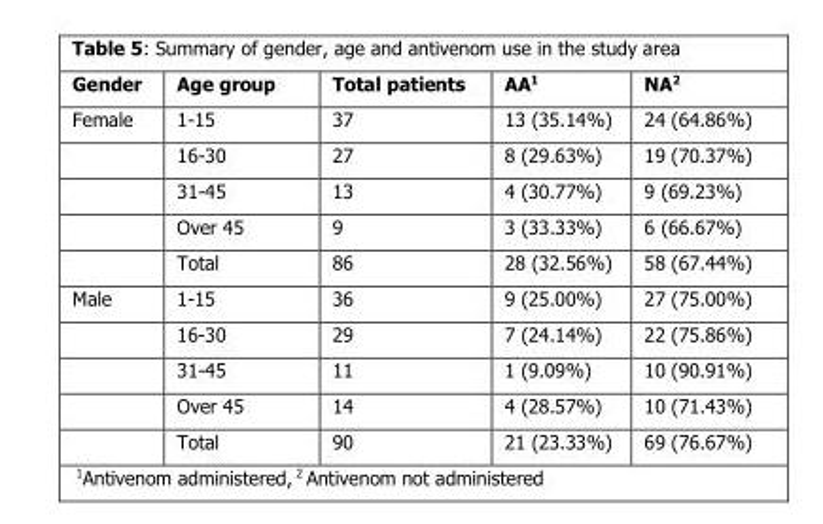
<table><thead><tr><td>Gender</td><td>Age group</td><td>Total patients</td><td>AA<sup>1</sup></td><td>NA<sup>2</sup></td></tr></thead><tbody><tr><td rowspan="5">Female</td><td>1-15</td><td>37</td><td>13 (35.14%)</td><td>24 (64.86%)</td></tr><tr><td>16-30</td><td>27</td><td>8 (29.63%)</td><td>19 (70.37%)</td></tr><tr><td>31-45</td><td>13</td><td>4 (30.77%)</td><td>9 (69.23%)</td></tr><tr><td>Over 45</td><td>9</td><td>3 (33.33%)</td><td>6 (66.67%)</td></tr><tr><td>Total</td><td>86</td><td>28 (32.56%)</td><td>58 (67.44%)</td></tr><tr><td rowspan="5">Male</td><td>1-15</td><td>36</td><td>9 (25.00%)</td><td>27 (75.00%)</td></tr><tr><td>16-30</td><td>29</td><td>7 (24.14%)</td><td>22 (75.86%)</td></tr><tr><td>31-45</td><td>11</td><td>1 (9.09%)</td><td>10 (90.91%)</td></tr><tr><td>Over 45</td><td>14</td><td>4 (28.57%)</td><td>10 (71.43%)</td></tr><tr><td>Total</td><td>90</td><td>21 (23.33%)</td><td>69 (76.67%)</td></tr></tbody></table>